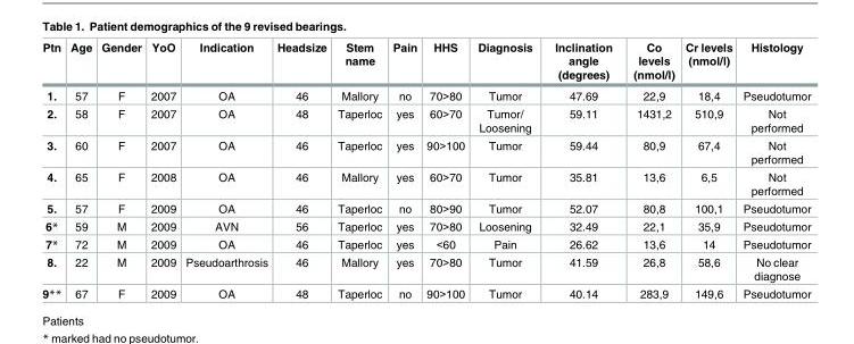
<table><thead><tr><td>Ptn</td><td>Age</td><td>Gender</td><td>YoO</td><td>Indication</td><td>Headsize</td><td>Stem name</td><td>Pain</td><td>HHS</td><td>Diagnosis</td><td>Inclination angle (degrees)</td><td>Co levels (nmol/l)</td><td>Cr levels (nmol/l)</td><td>Histology</td></tr></thead><tbody><tr><td>1.</td><td>57</td><td>F</td><td>2007</td><td>OA</td><td>46</td><td>Mallory</td><td>no</td><td>70&gt;80</td><td>Tumor</td><td>47.69</td><td>22,9</td><td>18,4</td><td>Pseudotumor</td></tr><tr><td>2.</td><td>58</td><td>F</td><td>2007</td><td>OA</td><td>48</td><td>Taperloc</td><td>yes</td><td>60&gt;70</td><td>Tumor/ Loosening</td><td>59.11</td><td>1431,2</td><td>510,9</td><td>Not performed</td></tr><tr><td>3.</td><td>60</td><td>F</td><td>2007</td><td>OA</td><td>46</td><td>Taperloc</td><td>yes</td><td>90&gt;100</td><td>Tumor</td><td>59.44</td><td>80,9</td><td>67,4</td><td>Not performed</td></tr><tr><td>4.</td><td>65</td><td>F</td><td>2008</td><td>OA</td><td>46</td><td>Mallory</td><td>yes</td><td>60&gt;70</td><td>Tumor</td><td>35.81</td><td>13,6</td><td>6,5</td><td>Not performed</td></tr><tr><td>5.</td><td>57</td><td>F</td><td>2009</td><td>OA</td><td>46</td><td>Taperloc</td><td>no</td><td>80&gt;90</td><td>Tumor</td><td>52.07</td><td>80,8</td><td>100,1</td><td>Pseudotumor</td></tr><tr><td>6*</td><td>59</td><td>M</td><td>2009</td><td>AVN</td><td>56</td><td>Taperloc</td><td>yes</td><td>70&gt;80</td><td>Loosening</td><td>32.49</td><td>22,1</td><td>35,9</td><td>Pseudotumor</td></tr><tr><td>7*</td><td>72</td><td>M</td><td>2009</td><td>OA</td><td>46</td><td>Taperloc</td><td>yes</td><td>&lt;60</td><td>Pain</td><td>26.62</td><td>13,6</td><td>14</td><td>Pseudotumor</td></tr><tr><td>8.</td><td>22</td><td>M</td><td>2009</td><td>Pseudoarthrosis</td><td>46</td><td>Mallory</td><td>yes</td><td>70&gt;80</td><td>Tumor</td><td>41.59</td><td>26,8</td><td>58,6</td><td>No clear diagnose</td></tr><tr><td>9**</td><td>67</td><td>F</td><td>2009</td><td>OA</td><td>48</td><td>Taperloc</td><td>no</td><td>90&gt;100</td><td>Tumor</td><td>40.14</td><td>283,9</td><td>149,6</td><td>Pseudotumor</td></tr></tbody></table>